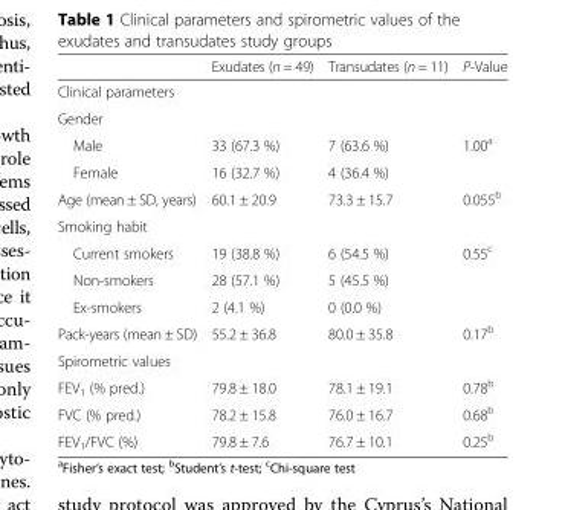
<table><thead><tr><td></td><td>Exudates (n = 49)</td><td>Transudates (n = 11)</td><td>P-Value</td></tr></thead><tbody><tr><td colspan="4">Clinical parameters</td></tr><tr><td colspan="4">Gender</td></tr><tr><td>Male</td><td>33 (67.3 %)</td><td>7 (63.6 %)</td><td rowspan="2">1.00<sup>a</sup></td></tr><tr><td>Female</td><td>16 (32.7 %)</td><td>4 (36.4 %)</td></tr><tr><td>Age (mean ± SD, years)</td><td>60.1 ± 20.9</td><td>73.3 ± 15.7</td><td>0.055<sup>b</sup></td></tr><tr><td colspan="4">Smoking habit</td></tr><tr><td>Current smokers</td><td>19 (38.8 %)</td><td>6 (54.5 %)</td><td rowspan="3">0.55<sup>c</sup></td></tr><tr><td>Non-smokers</td><td>28 (57.1 %)</td><td>5 (45.5 %)</td></tr><tr><td>Ex-smokers</td><td>2 (4.1 %)</td><td>0 (0.0 %)</td></tr><tr><td>Pack-years (mean ± SD)</td><td>55.2 ± 36.8</td><td>80.0 ± 35.8</td><td>0.17<sup>b</sup></td></tr><tr><td colspan="4">Spirometric values</td></tr><tr><td>FEV<sub>1</sub> (% pred.)</td><td>79.8 ± 18.0</td><td>78.1 ± 19.1</td><td>0.78<sup>b</sup></td></tr><tr><td>FVC (% pred.)</td><td>78.2 ± 15.8</td><td>76.0 ± 16.7</td><td>0.68<sup>b</sup></td></tr><tr><td>FEV<sub>1</sub>/FVC (%)</td><td>79.8 ± 7.6</td><td>76.7 ± 10.1</td><td>0.25<sup>b</sup></td></tr></tbody></table>